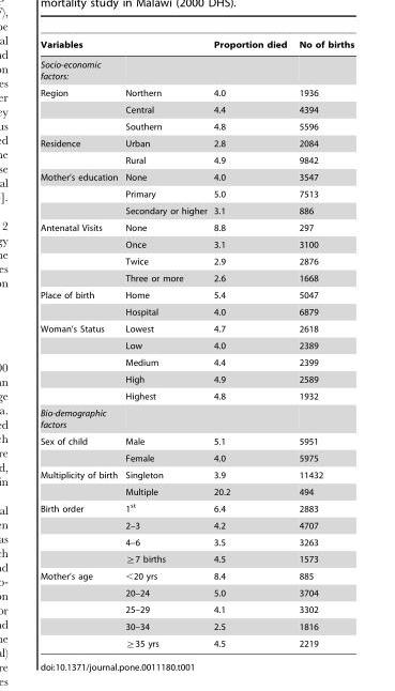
<table><thead><tr><td>Variables</td><td></td><td>Proportion died</td><td>No of births</td></tr></thead><tbody><tr><td colspan="4">Socio-economic factors:</td></tr><tr><td rowspan="3">Region</td><td>Northern</td><td>4.0</td><td>1936</td></tr><tr><td>Central</td><td>4.4</td><td>4394</td></tr><tr><td>Southern</td><td>4.8</td><td>5596</td></tr><tr><td rowspan="2">Residence</td><td>Urban</td><td>2.8</td><td>2084</td></tr><tr><td>Rural</td><td>4.9</td><td>9842</td></tr><tr><td rowspan="3">Mother’s education</td><td>None</td><td>4.0</td><td>3547</td></tr><tr><td>Primary</td><td>5.0</td><td>7513</td></tr><tr><td>Secondary or higher</td><td>3.1</td><td>886</td></tr><tr><td rowspan="4">Antenatal Visits</td><td>None</td><td>8.8</td><td>297</td></tr><tr><td>Once</td><td>3.1</td><td>3100</td></tr><tr><td>Twice</td><td>2.9</td><td>2876</td></tr><tr><td>Three or more</td><td>2.6</td><td>1668</td></tr><tr><td rowspan="2">Place of birth</td><td>Home</td><td>5.4</td><td>5047</td></tr><tr><td>Hospital</td><td>4.0</td><td>6879</td></tr><tr><td rowspan="5">Woman’s Status</td><td>Lowest</td><td>4.7</td><td>2618</td></tr><tr><td>Low</td><td>4.0</td><td>2389</td></tr><tr><td>Medium</td><td>4.4</td><td>2399</td></tr><tr><td>High</td><td>4.9</td><td>2589</td></tr><tr><td>Highest</td><td>4.8</td><td>1932</td></tr><tr><td colspan="4">Bio-demographic factors</td></tr><tr><td rowspan="2">Sex of child</td><td>Male</td><td>5.1</td><td>5951</td></tr><tr><td>Female</td><td>4.0</td><td>5975</td></tr><tr><td rowspan="2">Multiplicity of birth</td><td>Singleton</td><td>3.9</td><td>11432</td></tr><tr><td>Multiple</td><td>20.2</td><td>494</td></tr><tr><td rowspan="4">Birth order</td><td>1<sup>st</sup></td><td>6.4</td><td>2883</td></tr><tr><td>2–3</td><td>4.2</td><td>4707</td></tr><tr><td>4–6</td><td>3.5</td><td>3263</td></tr><tr><td>§7 births</td><td>4.5</td><td>1573</td></tr><tr><td rowspan="5">Mother’s age</td><td>&lt;20 yrs</td><td>8.4</td><td>885</td></tr><tr><td>20–24</td><td>5.0</td><td>3704</td></tr><tr><td>25–29</td><td>4.1</td><td>3302</td></tr><tr><td>30–34</td><td>2.5</td><td>1816</td></tr><tr><td>§35 yrs</td><td>4.5</td><td>2219</td></tr></tbody></table>